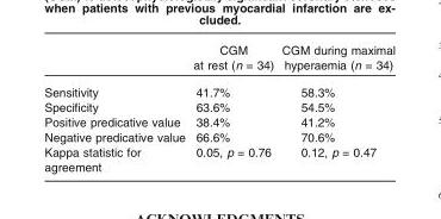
<table><thead><tr><td></td><td>CGM at rest (n = 34)</td><td>CGM during maximal hyperaemia (n = 34)</td></tr></thead><tbody><tr><td>Sensitivity</td><td>41.7%</td><td>58.3%</td></tr><tr><td>Specificity</td><td>63.6%</td><td>54.5%</td></tr><tr><td>Positive predicative value</td><td>38.4%</td><td>41.2%</td></tr><tr><td>Negative predicative value</td><td>66.6%</td><td>70.6%</td></tr><tr><td>Kappa statistic for agreement</td><td>0.05, p = 0.76</td><td>0.12, p = 0.47</td></tr></tbody></table>